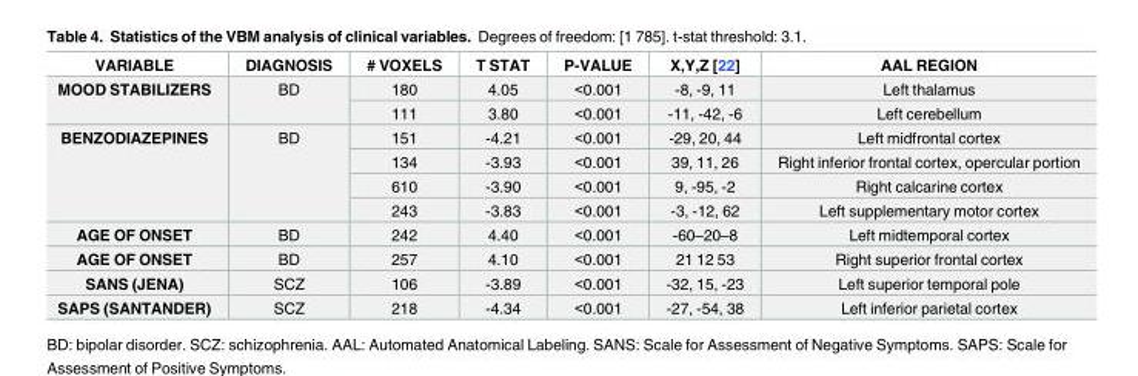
<table><thead><tr><td>VARIABLE</td><td>DIAGNOSIS</td><td># VOXELS</td><td>T STAT</td><td>P-VALUE</td><td>X,Y,Z [22]</td><td>AAL REGION</td></tr></thead><tbody><tr><td rowspan="2">MOOD STABILIZERS</td><td rowspan="2">BD</td><td>180</td><td>4.05</td><td>&lt;0.001</td><td>-8, -9, 11</td><td>Left thalamus</td></tr><tr><td>111</td><td>3.80</td><td>&lt;0.001</td><td>-11, -42, -6</td><td>Left cerebellum</td></tr><tr><td rowspan="4">BENZODIAZEPINES</td><td rowspan="4">BD</td><td>151</td><td>-4.21</td><td>&lt;0.001</td><td>-29, 20, 44</td><td>Left midfrontal cortex</td></tr><tr><td>134</td><td>-3.93</td><td>&lt;0.001</td><td>39, 11, 26</td><td>Right inferior frontal cortex, opercular portion</td></tr><tr><td>610</td><td>-3.90</td><td>&lt;0.001</td><td>9, -95, -2</td><td>Right calcarine cortex</td></tr><tr><td>243</td><td>-3.83</td><td>&lt;0.001</td><td>-3, -12, 62</td><td>Left supplementary motor cortex</td></tr><tr><td>AGE OF ONSET</td><td>BD</td><td>242</td><td>4.40</td><td>&lt;0.001</td><td>-60–20–8</td><td>Left midtemporal cortex</td></tr><tr><td>AGE OF ONSET</td><td>BD</td><td>257</td><td>4.10</td><td>&lt;0.001</td><td>21 12 53</td><td>Right superior frontal cortex</td></tr><tr><td>SANS (JENA)</td><td>SCZ</td><td>106</td><td>-3.89</td><td>&lt;0.001</td><td>-32, 15, -23</td><td>Left superior temporal pole</td></tr><tr><td>SAPS (SANTANDER)</td><td>SCZ</td><td>218</td><td>-4.34</td><td>&lt;0.001</td><td>-27, -54, 38</td><td>Left inferior parietal cortex</td></tr></tbody></table>